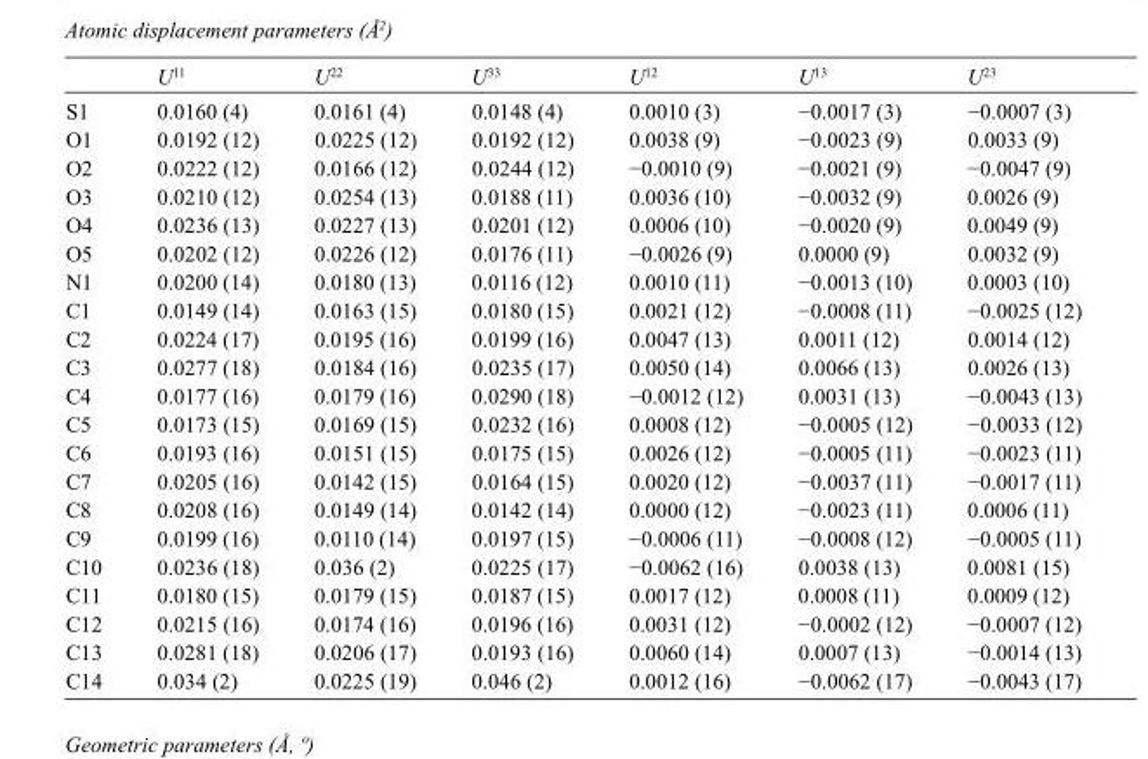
<table><thead><tr><td></td><td>U<sup>11</sup></td><td>U<sup>22</sup></td><td>U<sup>33</sup></td><td>U<sup>12</sup></td><td>U<sup>13</sup></td><td>U<sup>23</sup></td></tr></thead><tbody><tr><td>S1</td><td>0.0160 (4)</td><td>0.0161 (4)</td><td>0.0148 (4)</td><td>0.0010 (3)</td><td>−0.0017 (3)</td><td>−0.0007 (3)</td></tr><tr><td>O1</td><td>0.0192 (12)</td><td>0.0225 (12)</td><td>0.0192 (12)</td><td>0.0038 (9)</td><td>−0.0023 (9)</td><td>0.0033 (9)</td></tr><tr><td>O2</td><td>0.0222 (12)</td><td>0.0166 (12)</td><td>0.0244 (12)</td><td>−0.0010 (9)</td><td>−0.0021 (9)</td><td>−0.0047 (9)</td></tr><tr><td>O3</td><td>0.0210 (12)</td><td>0.0254 (13)</td><td>0.0188 (11)</td><td>0.0036 (10)</td><td>−0.0032 (9)</td><td>0.0026 (9)</td></tr><tr><td>O4</td><td>0.0236 (13)</td><td>0.0227 (13)</td><td>0.0201 (12)</td><td>0.0006 (10)</td><td>−0.0020 (9)</td><td>0.0049 (9)</td></tr><tr><td>O5</td><td>0.0202 (12)</td><td>0.0226 (12)</td><td>0.0176 (11)</td><td>−0.0026 (9)</td><td>0.0000 (9)</td><td>0.0032 (9)</td></tr><tr><td>N1</td><td>0.0200 (14)</td><td>0.0180 (13)</td><td>0.0116 (12)</td><td>0.0010 (11)</td><td>−0.0013 (10)</td><td>0.0003 (10)</td></tr><tr><td>C1</td><td>0.0149 (14)</td><td>0.0163 (15)</td><td>0.0180 (15)</td><td>0.0021 (12)</td><td>−0.0008 (11)</td><td>−0.0025 (12)</td></tr><tr><td>C2</td><td>0.0224 (17)</td><td>0.0195 (16)</td><td>0.0199 (16)</td><td>0.0047 (13)</td><td>0.0011 (12)</td><td>0.0014 (12)</td></tr><tr><td>C3</td><td>0.0277 (18)</td><td>0.0184 (16)</td><td>0.0235 (17)</td><td>0.0050 (14)</td><td>0.0066 (13)</td><td>0.0026 (13)</td></tr><tr><td>C4</td><td>0.0177 (16)</td><td>0.0179 (16)</td><td>0.0290 (18)</td><td>−0.0012 (12)</td><td>0.0031 (13)</td><td>−0.0043 (13)</td></tr><tr><td>C5</td><td>0.0173 (15)</td><td>0.0169 (15)</td><td>0.0232 (16)</td><td>0.0008 (12)</td><td>−0.0005 (12)</td><td>−0.0033 (12)</td></tr><tr><td>C6</td><td>0.0193 (16)</td><td>0.0151 (15)</td><td>0.0175 (15)</td><td>0.0026 (12)</td><td>−0.0005 (11)</td><td>−0.0023 (11)</td></tr><tr><td>C7</td><td>0.0205 (16)</td><td>0.0142 (15)</td><td>0.0164 (15)</td><td>0.0020 (12)</td><td>−0.0037 (11)</td><td>−0.0017 (11)</td></tr><tr><td>C8</td><td>0.0208 (16)</td><td>0.0149 (14)</td><td>0.0142 (14)</td><td>0.0000 (12)</td><td>−0.0023 (11)</td><td>0.0006 (11)</td></tr><tr><td>C9</td><td>0.0199 (16)</td><td>0.0110 (14)</td><td>0.0197 (15)</td><td>−0.0006 (11)</td><td>−0.0008 (12)</td><td>−0.0005 (11)</td></tr><tr><td>C10</td><td>0.0236 (18)</td><td>0.036 (2)</td><td>0.0225 (17)</td><td>−0.0062 (16)</td><td>0.0038 (13)</td><td>0.0081 (15)</td></tr><tr><td>C11</td><td>0.0180 (15)</td><td>0.0179 (15)</td><td>0.0187 (15)</td><td>0.0017 (12)</td><td>0.0008 (11)</td><td>0.0009 (12)</td></tr><tr><td>C12</td><td>0.0215 (16)</td><td>0.0174 (16)</td><td>0.0196 (16)</td><td>0.0031 (12)</td><td>−0.0002 (12)</td><td>−0.0007 (12)</td></tr><tr><td>C13</td><td>0.0281 (18)</td><td>0.0206 (17)</td><td>0.0193 (16)</td><td>0.0060 (14)</td><td>0.0007 (13)</td><td>−0.0014 (13)</td></tr><tr><td>C14</td><td>0.034 (2)</td><td>0.0225 (19)</td><td>0.046 (2)</td><td>0.0012 (16)</td><td>−0.0062 (17)</td><td>−0.0043 (17)</td></tr></tbody></table>